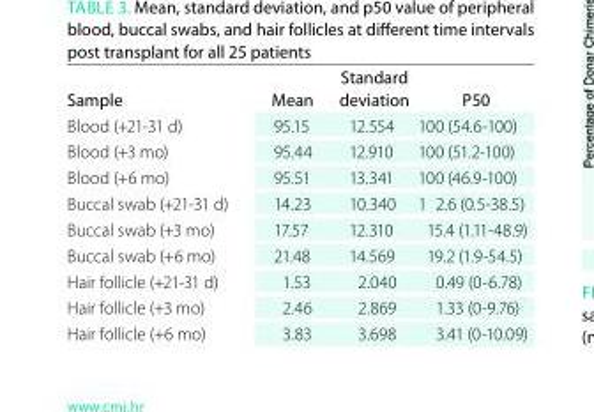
<table><thead><tr><td>sample</td><td>Mean</td><td>standard deviation</td><td>P50</td></tr></thead><tbody><tr><td>Blood (+21-31 d)</td><td>95.15</td><td>12.554</td><td>100 (54.6-100)</td></tr><tr><td>Blood (+3 mo)</td><td>95.44</td><td>12.910</td><td>100 (51.2-100)</td></tr><tr><td>Blood (+6 mo)</td><td>95.51</td><td>13.341</td><td>100 (46.9-100)</td></tr><tr><td>Buccal swab (+21-31 d)</td><td>14.23</td><td>10.340</td><td>1 2.6 (0.5-38.5)</td></tr><tr><td>Buccal swab (+3 mo)</td><td>17.57</td><td>12.310</td><td>15.4 (1.11-48.9)</td></tr><tr><td>Buccal swab (+6 mo)</td><td>21.48</td><td>14.569</td><td>19.2 (1.9-54.5)</td></tr><tr><td>Hair follicle (+21-31 d)</td><td>1.53</td><td>2.040</td><td>0.49 (0-6.78)</td></tr><tr><td>Hair follicle (+3 mo)</td><td>2.46</td><td>2.869</td><td>1.33 (0-9.76)</td></tr><tr><td>Hair follicle (+6 mo)</td><td>3.83</td><td>3.698</td><td>3.41 (0-10.09)</td></tr></tbody></table>